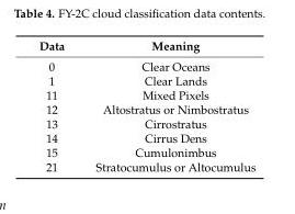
<table><thead><tr><td>Data</td><td>Meaning</td></tr></thead><tbody><tr><td>0</td><td>Clear Oceans</td></tr><tr><td>1</td><td>Clear Lands</td></tr><tr><td>11</td><td>Mixed Pixels</td></tr><tr><td>12</td><td>Altostratus or Nimbostratus</td></tr><tr><td>13</td><td>Cirrostratus</td></tr><tr><td>14</td><td>Cirrus Dens</td></tr><tr><td>15</td><td>Cumulonimbus</td></tr><tr><td>21</td><td>Stratocumulus or Altocumulus</td></tr></tbody></table>